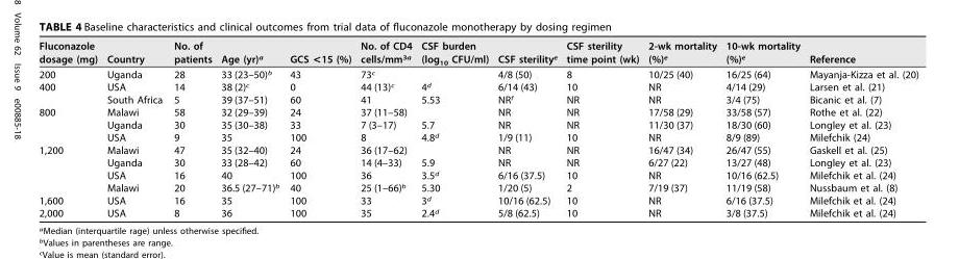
<table><thead><tr><td>Fluconazole dosage (mg)</td><td>Country</td><td>No. of patients</td><td>Age (yr)<sup>a</sup></td><td>GCS &lt;15 (%)</td><td>No. of CD4 cells/mm<sup>3a</sup></td><td>CSF burden (log<sub>10</sub> CFU/ml)</td><td>CSF sterility<sup>e</sup></td><td>CSF sterility time point (wk)</td><td>2-wk mortality (%)<sup>e</sup></td><td>10-wk mortality (%)<sup>e</sup></td><td>Reference</td></tr></thead><tbody><tr><td>200</td><td>Uganda</td><td>28</td><td>33 (23–50)<sup>b</sup></td><td>43</td><td>73<sup>c</sup></td><td></td><td>4/8 (50)</td><td>8</td><td>10/25 (40)</td><td>16/25 (64)</td><td>Mayanja-Kizza et al. (20)</td></tr><tr><td rowspan="2">400</td><td>USA</td><td>14</td><td>38 (2)<sup>c</sup></td><td>0</td><td>44 (13)<sup>c</sup></td><td>4<sup>d</sup></td><td>6/14 (43)</td><td>10</td><td>NR</td><td>4/14 (29)</td><td>Larsen et al. (21)</td></tr><tr><td>South Africa</td><td>5</td><td>39 (37–51)</td><td>60</td><td>41</td><td>5.53</td><td>NR<sup>f</sup></td><td>NR</td><td>NR</td><td>3/4 (75)</td><td>Bicanic et al. (7)</td></tr><tr><td rowspan="3">800</td><td>Malawi</td><td>58</td><td>32 (29–39)</td><td>24</td><td>37 (11–58)</td><td></td><td>NR</td><td>NR</td><td>17/58 (29)</td><td>33/58 (57)</td><td>Rothe et al. (22)</td></tr><tr><td>Uganda</td><td>30</td><td>35 (30–38)</td><td>33</td><td>7 (3–17)</td><td>5.7</td><td>NR</td><td>NR</td><td>11/30 (37)</td><td>18/30 (60)</td><td>Longley et al. (23)</td></tr><tr><td>USA</td><td>9</td><td>35</td><td>100</td><td>8</td><td>4.8<sup>d</sup></td><td>1/9 (11)</td><td>10</td><td>NR</td><td>8/9 (89)</td><td>Milefchik (24)</td></tr><tr><td rowspan="4">1,200</td><td>Malawi</td><td>47</td><td>35 (32–40)</td><td>24</td><td>36 (17–62)</td><td></td><td>NR</td><td>NR</td><td>16/47 (34)</td><td>26/47 (55)</td><td>Gaskell et al. (25)</td></tr><tr><td>Uganda</td><td>30</td><td>33 (28–42)</td><td>60</td><td>14 (4–33)</td><td>5.9</td><td>NR</td><td>NR</td><td>6/27 (22)</td><td>13/27 (48)</td><td>Longley et al. (23)</td></tr><tr><td>USA</td><td>16</td><td>40</td><td>100</td><td>36</td><td>3.5<sup>d</sup></td><td>6/16 (37.5)</td><td>10</td><td>NR</td><td>10/16 (62.5)</td><td>Milefchik et al. (24)</td></tr><tr><td>Malawi</td><td>20</td><td>36.5 (27–71)<sup>b</sup></td><td>40</td><td>25 (1–66)<sup>b</sup></td><td>5.30</td><td>1/20 (5)</td><td>2</td><td>7/19 (37)</td><td>11/19 (58)</td><td>Nussbaum et al. (8)</td></tr><tr><td>1,600</td><td>USA</td><td>16</td><td>35</td><td>100</td><td>33</td><td>3<sup>d</sup></td><td>10/16 (62.5)</td><td>10</td><td>NR</td><td>6/16 (37.5)</td><td>Milefchik et al. (24)</td></tr><tr><td>2,000</td><td>USA</td><td>8</td><td>36</td><td>100</td><td>35</td><td>2.4<sup>d</sup></td><td>5/8 (62.5)</td><td>10</td><td>NR</td><td>3/8 (37.5)</td><td>Milefchik et al. (24)</td></tr></tbody></table>